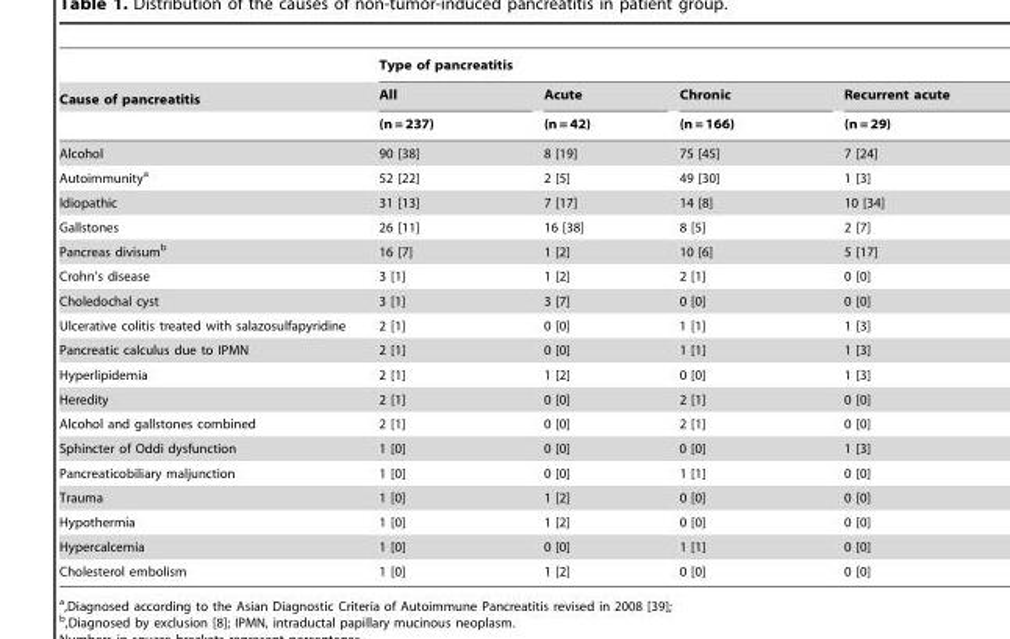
<table><thead><tr><td rowspan="3">Cause of pancreatitis</td><td colspan="4">Type of pancreatitis</td></tr><tr><td rowspan="2">All (n = 237)</td><td rowspan="2">Acute (n = 42)</td><td rowspan="2">Chronic (n = 166)</td><td rowspan="2">Recurrent acute (n = 29)</td></tr><tr></tr></thead><tbody><tr><td>Alcohol</td><td>90 [38]</td><td>8 [19]</td><td>75 [45]</td><td>7 [24]</td></tr><tr><td>Autoimmunity<sup>a</sup></td><td>52 [22]</td><td>2 [5]</td><td>49 [30]</td><td>1 [3]</td></tr><tr><td>Idiopathic</td><td>31 [13]</td><td>7 [17]</td><td>14 [8]</td><td>10 [34]</td></tr><tr><td>Gallstones</td><td>26 [11]</td><td>16 [38]</td><td>8 [5]</td><td>2 [7]</td></tr><tr><td>Pancreas divisum<sup>b</sup></td><td>16 [7]</td><td>1 [2]</td><td>10 [6]</td><td>5 [17]</td></tr><tr><td>Crohn’s disease</td><td>3 [1]</td><td>1 [2]</td><td>2 [1]</td><td>0 [0]</td></tr><tr><td>Choledochal cyst</td><td>3 [1]</td><td>3 [7]</td><td>0 [0]</td><td>0 [0]</td></tr><tr><td>Ulcerative colitis treated with salazosulfapyridine</td><td>2 [1]</td><td>0 [0]</td><td>1 [1]</td><td>1 [3]</td></tr><tr><td>Pancreatic calculus due to IPMN</td><td>2 [1]</td><td>0 [0]</td><td>1 [1]</td><td>1 [3]</td></tr><tr><td>Hyperlipidemia</td><td>2 [1]</td><td>1 [2]</td><td>0 [0]</td><td>1 [3]</td></tr><tr><td>Heredity</td><td>2 [1]</td><td>0 [0]</td><td>2 [1]</td><td>0 [0]</td></tr><tr><td>Alcohol and gallstones combined</td><td>2 [1]</td><td>0 [0]</td><td>2 [1]</td><td>0 [0]</td></tr><tr><td>Sphincter of Oddi dysfunction</td><td>1 [0]</td><td>0 [0]</td><td>0 [0]</td><td>1 [3]</td></tr><tr><td>Pancreaticobiliary maljunction</td><td>1 [0]</td><td>0 [0]</td><td>1 [1]</td><td>0 [0]</td></tr><tr><td>Trauma</td><td>1 [0]</td><td>1 [2]</td><td>0 [0]</td><td>0 [0]</td></tr><tr><td>Hypothermia</td><td>1 [0]</td><td>1 [2]</td><td>0 [0]</td><td>0 [0]</td></tr><tr><td>Hypercalcemia</td><td>1 [0]</td><td>0 [0]</td><td>1 [1]</td><td>0 [0]</td></tr><tr><td>Cholesterol embolism</td><td>1 [0]</td><td>1 [2]</td><td>0 [0]</td><td>0 [0]</td></tr></tbody></table>